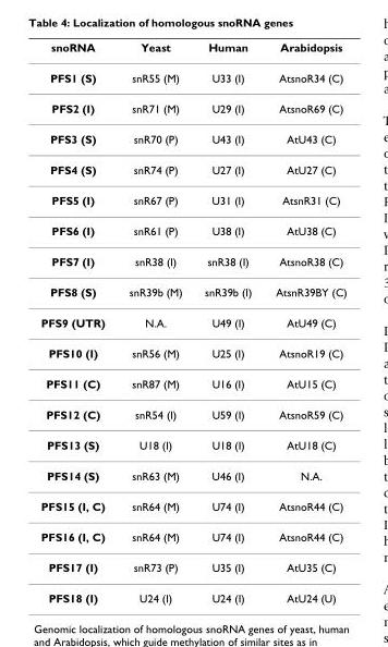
<table><thead><tr><td>snoRNA</td><td>Yeast</td><td>Human</td><td>Arabidopsis</td></tr></thead><tbody><tr><td>PFS1 (S)</td><td>snR55 (M)</td><td>U33 (I)</td><td>AtsnoR34 (C)</td></tr><tr><td>PFS2 (I)</td><td>snR71 (M)</td><td>U29 (I)</td><td>AtsnoR69 (C)</td></tr><tr><td>PFS3 (S)</td><td>snR70 (P)</td><td>U43 (I)</td><td>AtU43 (C)</td></tr><tr><td>PFS4 (S)</td><td>snR74 (P)</td><td>U27 (I)</td><td>AtU27 (C)</td></tr><tr><td>PFS5 (I)</td><td>snR67 (P)</td><td>U31 (I)</td><td>AtsnR31 (C)</td></tr><tr><td>PFS6 (I)</td><td>snR61 (P)</td><td>U38 (I)</td><td>AtU38 (C)</td></tr><tr><td>PFS7 (I)</td><td>snR38 (I)</td><td>snR38 (I)</td><td>AtsnoR38 (C)</td></tr><tr><td>PFS8 (S)</td><td>snR39b (M)</td><td>snR39b (I)</td><td>AtsnR39BY (C)</td></tr><tr><td>PFS9 (UTR)</td><td>N.A.</td><td>U49 (I)</td><td>AtU49 (C)</td></tr><tr><td>PFS10 (I)</td><td>snR56 (M)</td><td>U25 (I)</td><td>AtsnoR19 (C)</td></tr><tr><td>PFS11 (C)</td><td>snR87 (M)</td><td>U16 (I)</td><td>AtU15 (C)</td></tr><tr><td>PFS12 (C)</td><td>snR54 (I)</td><td>U59 (I)</td><td>AtsnoR59 (C)</td></tr><tr><td>PFS13 (S)</td><td>U18 (I)</td><td>U18 (I)</td><td>AtU18 (C)</td></tr><tr><td>PFS14 (S)</td><td>snR63 (M)</td><td>U46 (I)</td><td>N.A.</td></tr><tr><td>PFS15 (I, C)</td><td>snR64 (M)</td><td>U74 (I)</td><td>AtsnoR44 (C)</td></tr><tr><td>PFS16 (I, C)</td><td>snR64 (M)</td><td>U74 (I)</td><td>AtsnoR44 (C)</td></tr><tr><td>PFS17 (I)</td><td>snR73 (P)</td><td>U35 (I)</td><td>AtU35 (C)</td></tr><tr><td>PFS18 (I)</td><td>U24 (I)</td><td>U24 (I)</td><td>AtU24 (U)</td></tr></tbody></table>